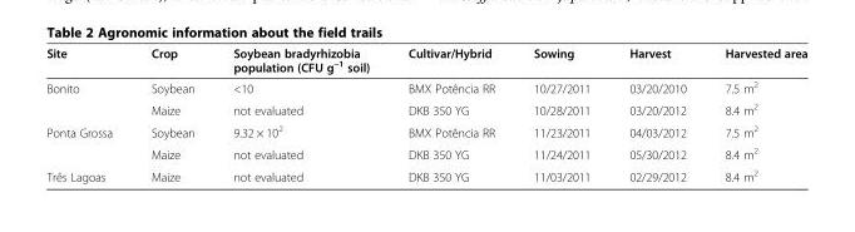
<table><thead><tr><td>Site</td><td>Crop</td><td>Soybean bradyrhizobia population (CFU g<sup>–1</sup> soil)</td><td>Cultivar/Hybrid</td><td>Sowing</td><td>Harvest</td><td>Harvested area</td></tr></thead><tbody><tr><td rowspan="2">Bonito</td><td>Soybean</td><td>&lt;10</td><td>BMX Potência RR</td><td>10/27/2011</td><td>03/20/2010</td><td>7.5 m<sup>2</sup></td></tr><tr><td>Maize</td><td>not evaluated</td><td>DKB 350 YG</td><td>10/28/2011</td><td>03/20/2012</td><td>8.4 m<sup>2</sup></td></tr><tr><td rowspan="2">Ponta Grossa</td><td>Soybean</td><td>9.32 × 10<sup>2</sup></td><td>BMX Potência RR</td><td>11/23/2011</td><td>04/03/2012</td><td>7.5 m<sup>2</sup></td></tr><tr><td>Maize</td><td>not evaluated</td><td>DKB 350 YG</td><td>11/24/2011</td><td>05/30/2012</td><td>8.4 m<sup>2</sup></td></tr><tr><td>Três Lagoas</td><td>Maize</td><td>not evaluated</td><td>DKB 350 YG</td><td>11/03/2011</td><td>02/29/2012</td><td>8.4 m<sup>2</sup></td></tr></tbody></table>